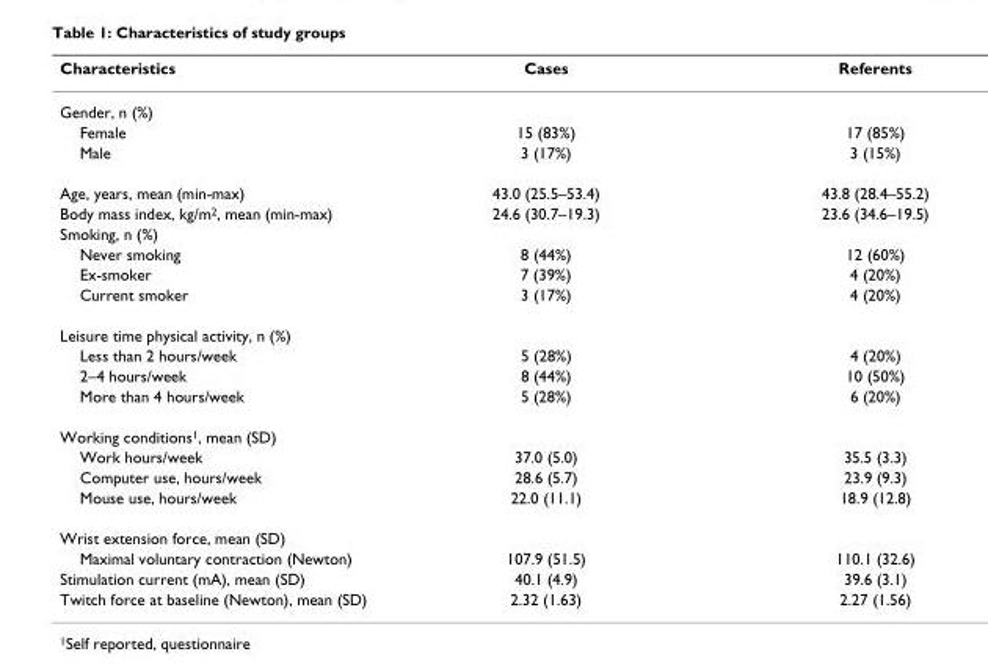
<table><thead><tr><td>Characteristics</td><td>Cases</td><td>Referents</td></tr></thead><tbody><tr><td colspan="3">Gender, n (%)</td></tr><tr><td>Female</td><td>15 (83%)</td><td>17 (85%)</td></tr><tr><td>Male</td><td>3 (17%)</td><td>3 (15%)</td></tr><tr><td>Age, years, mean (min-max)</td><td>43.0 (25.5–53.4)</td><td>43.8 (28.4–55.2)</td></tr><tr><td>Body mass index, kg/m<sup>2</sup>, mean (min-max)</td><td>24.6 (30.7–19.3)</td><td>23.6 (34.6–19.5)</td></tr><tr><td colspan="3">Smoking, n (%)</td></tr><tr><td>Never smoking</td><td>8 (44%)</td><td>12 (60%)</td></tr><tr><td>Ex-smoker</td><td>7 (39%)</td><td>4 (20%)</td></tr><tr><td>Current smoker</td><td>3 (17%)</td><td>4 (20%)</td></tr><tr><td colspan="3">Leisure time physical activity, n (%)</td></tr><tr><td>Less than 2 hours/week</td><td>5 (28%)</td><td>4 (20%)</td></tr><tr><td>2–4 hours/week</td><td>8 (44%)</td><td>10 (50%)</td></tr><tr><td>More than 4 hours/week</td><td>5 (28%)</td><td>6 (20%)</td></tr><tr><td colspan="3">Working conditions<sup>1</sup>, mean (SD)</td></tr><tr><td>Work hours/week</td><td>37.0 (5.0)</td><td>35.5 (3.3)</td></tr><tr><td>Computer use, hours/week</td><td>28.6 (5.7)</td><td>23.9 (9.3)</td></tr><tr><td>Mouse use, hours/week</td><td>22.0 (11.1)</td><td>18.9 (12.8)</td></tr><tr><td colspan="3">Wrist extension force, mean (SD)</td></tr><tr><td>Maximal voluntary contraction (Newton)</td><td>107.9 (51.5)</td><td>110.1 (32.6)</td></tr><tr><td>Stimulation current (mA), mean (SD)</td><td>40.1 (4.9)</td><td>39.6 (3.1)</td></tr><tr><td>Twitch force at baseline (Newton), mean (SD)</td><td>2.32 (1.63)</td><td>2.27 (1.56)</td></tr></tbody></table>